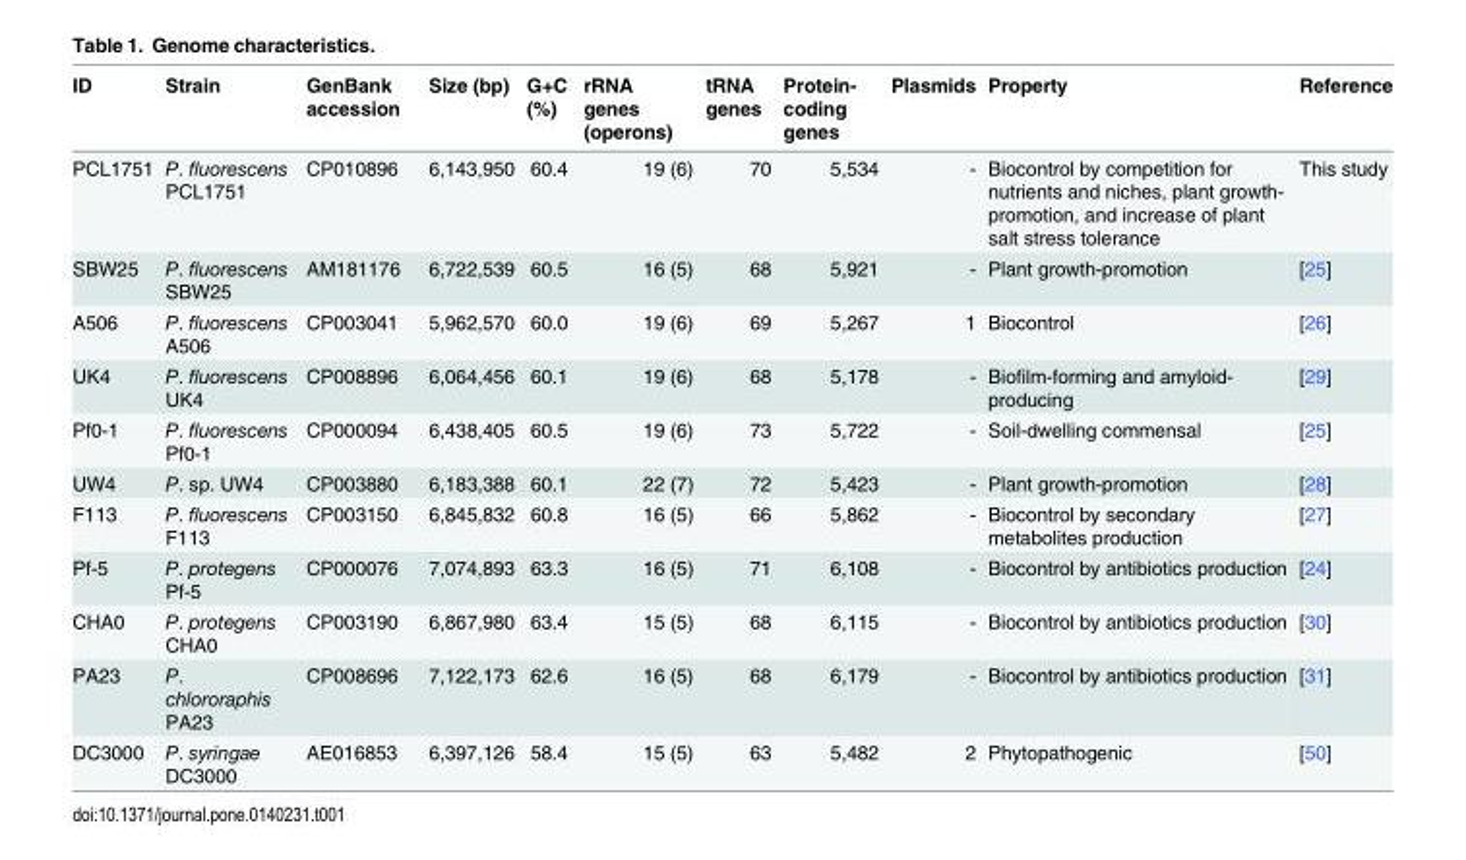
<table><thead><tr><td>ID</td><td>Strain</td><td>GenBank accession</td><td>Size (bp)</td><td>G+C (%)</td><td>rRNA genes (operons)</td><td>tRNA genes</td><td>Protein- coding genes</td><td>Plasmids</td><td>Property</td><td>Reference</td></tr></thead><tbody><tr><td>PCL1751</td><td>P. fluorescens PCL1751</td><td>CP010896</td><td>6,143,950</td><td>60.4</td><td>19 (6)</td><td>70</td><td>5,534</td><td>-</td><td>Biocontrol by competition for nutrients and niches, plant growth- promotion, and increase of plant salt stress tolerance</td><td>This study</td></tr><tr><td>SBW25</td><td>P. fluorescens SBW25</td><td>AM181176</td><td>6,722,539</td><td>60.5</td><td>16 (5)</td><td>68</td><td>5,921</td><td>-</td><td>Plant growth-promotion</td><td>[25]</td></tr><tr><td>A506</td><td>P. fluorescens A506</td><td>CP003041</td><td>5,962,570</td><td>60.0</td><td>19 (6)</td><td>69</td><td>5,267</td><td>1</td><td>Biocontrol</td><td>[26]</td></tr><tr><td>UK4</td><td>P. fluorescens UK4</td><td>CP008896</td><td>6,064,456</td><td>60.1</td><td>19 (6)</td><td>68</td><td>5,178</td><td>-</td><td>Biofilm-forming and amyloid- producing</td><td>[29]</td></tr><tr><td>Pf0-1</td><td>P. fluorescens Pf0-1</td><td>CP000094</td><td>6,438,405</td><td>60.5</td><td>19 (6)</td><td>73</td><td>5,722</td><td>-</td><td>Soil-dwelling commensal</td><td>[25]</td></tr><tr><td>UW4</td><td>P. sp. UW4</td><td>CP003880</td><td>6,183,388</td><td>60.1</td><td>22 (7)</td><td>72</td><td>5,423</td><td>-</td><td>Plant growth-promotion</td><td>[28]</td></tr><tr><td>F113</td><td>P. fluorescens F113</td><td>CP003150</td><td>6,845,832</td><td>60.8</td><td>16 (5)</td><td>66</td><td>5,862</td><td>-</td><td>Biocontrol by secondary metabolites production</td><td>[27]</td></tr><tr><td>Pf-5</td><td>P. protegens Pf-5</td><td>CP000076</td><td>7,074,893</td><td>63.3</td><td>16 (5)</td><td>71</td><td>6,108</td><td>-</td><td>Biocontrol by antibiotics production</td><td>[24]</td></tr><tr><td>CHA0</td><td>P. protegens CHA0</td><td>CP003190</td><td>6,867,980</td><td>63.4</td><td>15 (5)</td><td>68</td><td>6,115</td><td>-</td><td>Biocontrol by antibiotics production</td><td>[30]</td></tr><tr><td>PA23</td><td>P. chlororaphis PA23</td><td>CP008696</td><td>7,122,173</td><td>62.6</td><td>16 (5)</td><td>68</td><td>6,179</td><td>-</td><td>Biocontrol by antibiotics production</td><td>[31]</td></tr><tr><td>DC3000</td><td>P. syringae DC3000</td><td>AE016853</td><td>6,397,126</td><td>58.4</td><td>15 (5)</td><td>63</td><td>5,482</td><td>2</td><td>Phytopathogenic</td><td>[50]</td></tr></tbody></table>